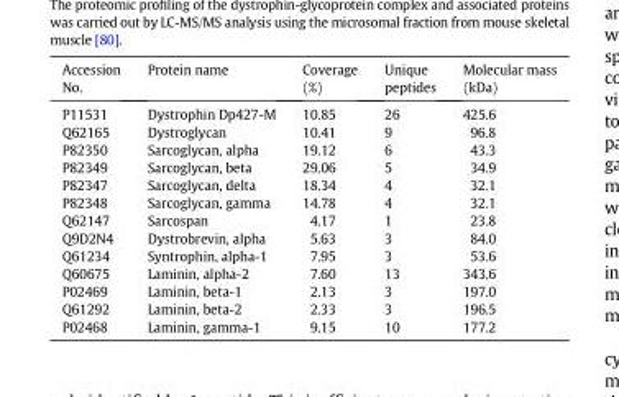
<table><thead><tr><td>Accession No.</td><td>Protein name</td><td>Coverage (%)</td><td>Unique peptides</td><td>Molecular mass (kDa)</td></tr></thead><tbody><tr><td>P11531</td><td>Dystrophin Dp427-M</td><td>10.85</td><td>26</td><td>425.6</td></tr><tr><td>Q62165</td><td>Dystroglycan</td><td>10.41</td><td>9</td><td>96.8</td></tr><tr><td>P82350</td><td>Sarcoglycan, alpha</td><td>19.12</td><td>6</td><td>43.3</td></tr><tr><td>P82349</td><td>Sarcoglycan, beta</td><td>29.06</td><td>5</td><td>34.9</td></tr><tr><td>P82347</td><td>Sarcoglycan, delta</td><td>18.34</td><td>4</td><td>32.1</td></tr><tr><td>P82348</td><td>Sarcoglycan, gamma</td><td>14.78</td><td>4</td><td>32.1</td></tr><tr><td>Q62147</td><td>Sarcospan</td><td>4.17</td><td>1</td><td>23.8</td></tr><tr><td>Q9D2N4</td><td>Dystrobrevin, alpha</td><td>5.63</td><td>3</td><td>84.0</td></tr><tr><td>Q61234</td><td>Syntrophin, alpha-1</td><td>7.95</td><td>3</td><td>53.6</td></tr><tr><td>Q60675</td><td>Laminin, alpha-2</td><td>7.60</td><td>13</td><td>343.6</td></tr><tr><td>P02469</td><td>Laminin, beta-1</td><td>2.13</td><td>3</td><td>197.0</td></tr><tr><td>Q61292</td><td>Laminin, beta-2</td><td>2.33</td><td>3</td><td>196.5</td></tr><tr><td>P02468</td><td>Laminin, gamma-1</td><td>9.15</td><td>10</td><td>177.2</td></tr></tbody></table>